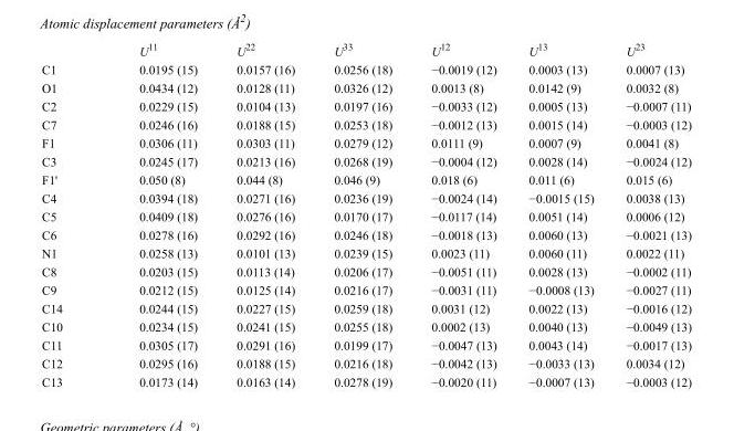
<table><thead><tr><td></td><td>U<sup>11</sup></td><td>U<sup>22</sup></td><td>U<sup>33</sup></td><td>U<sup>12</sup></td><td>U<sup>13</sup></td><td>U<sup>23</sup></td></tr></thead><tbody><tr><td>C1</td><td>0.0195 (15)</td><td>0.0157 (16)</td><td>0.0256 (18)</td><td>−0.0019 (12)</td><td>0.0003 (13)</td><td>0.0007 (13)</td></tr><tr><td>O1</td><td>0.0434 (12)</td><td>0.0128 (11)</td><td>0.0326 (12)</td><td>0.0013 (8)</td><td>0.0142 (9)</td><td>0.0032 (8)</td></tr><tr><td>C2</td><td>0.0229 (15)</td><td>0.0104 (13)</td><td>0.0197 (16)</td><td>−0.0033 (12)</td><td>0.0005 (13)</td><td>−0.0007 (11)</td></tr><tr><td>C7</td><td>0.0246 (16)</td><td>0.0188 (15)</td><td>0.0253 (18)</td><td>−0.0012 (13)</td><td>0.0015 (14)</td><td>−0.0003 (12)</td></tr><tr><td>F1</td><td>0.0306 (11)</td><td>0.0303 (11)</td><td>0.0279 (12)</td><td>0.0111 (9)</td><td>0.0007 (9)</td><td>0.0041 (8)</td></tr><tr><td>C3</td><td>0.0245 (17)</td><td>0.0213 (16)</td><td>0.0268 (19)</td><td>−0.0004 (12)</td><td>0.0028 (14)</td><td>−0.0024 (12)</td></tr><tr><td>F1&#x27;</td><td>0.050 (8)</td><td>0.044 (8)</td><td>0.046 (9)</td><td>0.018 (6)</td><td>0.011 (6)</td><td>0.015 (6)</td></tr><tr><td>C4</td><td>0.0394 (18)</td><td>0.0271 (16)</td><td>0.0236 (19)</td><td>−0.0024 (14)</td><td>−0.0015 (15)</td><td>0.0038 (13)</td></tr><tr><td>C5</td><td>0.0409 (18)</td><td>0.0276 (16)</td><td>0.0170 (17)</td><td>−0.0117 (14)</td><td>0.0051 (14)</td><td>0.0006 (12)</td></tr><tr><td>C6</td><td>0.0278 (16)</td><td>0.0292 (16)</td><td>0.0246 (18)</td><td>−0.0018 (13)</td><td>0.0060 (13)</td><td>−0.0021 (13)</td></tr><tr><td>N1</td><td>0.0258 (13)</td><td>0.0101 (13)</td><td>0.0239 (15)</td><td>0.0023 (11)</td><td>0.0060 (11)</td><td>0.0022 (11)</td></tr><tr><td>C8</td><td>0.0203 (15)</td><td>0.0113 (14)</td><td>0.0206 (17)</td><td>−0.0051 (11)</td><td>0.0028 (13)</td><td>−0.0002 (11)</td></tr><tr><td>C9</td><td>0.0212 (15)</td><td>0.0125 (14)</td><td>0.0216 (17)</td><td>−0.0031 (11)</td><td>−0.0008 (13)</td><td>−0.0027 (11)</td></tr><tr><td>C14</td><td>0.0244 (15)</td><td>0.0227 (15)</td><td>0.0259 (18)</td><td>0.0031 (12)</td><td>0.0022 (13)</td><td>−0.0016 (12)</td></tr><tr><td>C10</td><td>0.0234 (15)</td><td>0.0241 (15)</td><td>0.0255 (18)</td><td>0.0002 (13)</td><td>0.0040 (13)</td><td>−0.0049 (13)</td></tr><tr><td>C11</td><td>0.0305 (17)</td><td>0.0291 (16)</td><td>0.0199 (17)</td><td>−0.0047 (13)</td><td>0.0043 (14)</td><td>−0.0017 (13)</td></tr><tr><td>C12</td><td>0.0295 (16)</td><td>0.0188 (15)</td><td>0.0216 (18)</td><td>−0.0042 (13)</td><td>−0.0033 (13)</td><td>0.0034 (12)</td></tr><tr><td>C13</td><td>0.0173 (14)</td><td>0.0163 (14)</td><td>0.0278 (19)</td><td>−0.0020 (11)</td><td>−0.0007 (13)</td><td>−0.0003 (12)</td></tr></tbody></table>